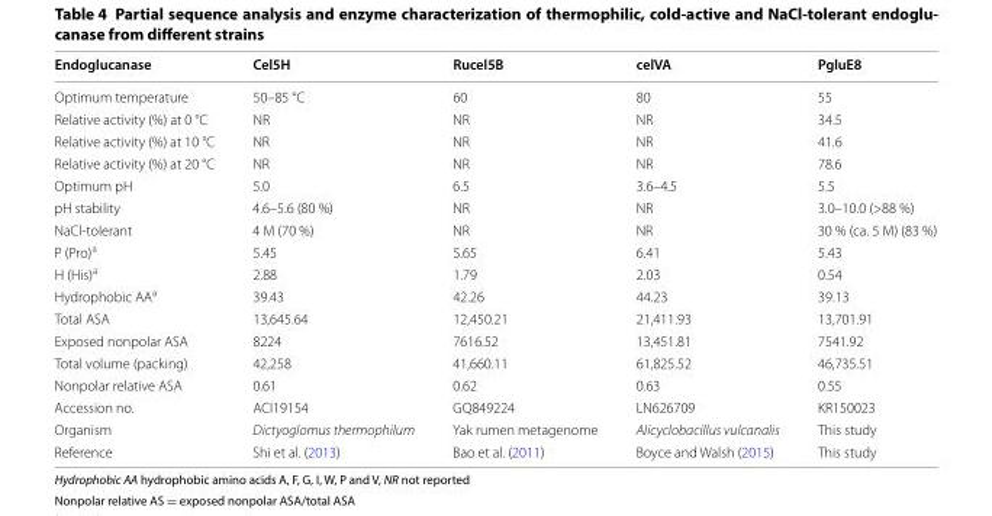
<table><thead><tr><td>Endoglucanase</td><td>Cel5H</td><td>Rucel5B</td><td>celVA</td><td>PgluE8</td></tr></thead><tbody><tr><td>Optimum temperature</td><td>50–85 °C</td><td>60</td><td>80</td><td>55</td></tr><tr><td>Relative activity (%) at 0 °C</td><td>NR</td><td>NR</td><td>NR</td><td>34.5</td></tr><tr><td>Relative activity (%) at 10 °C</td><td>NR</td><td>NR</td><td>NR</td><td>41.6</td></tr><tr><td>Relative activity (%) at 20 °C</td><td>NR</td><td>NR</td><td>NR</td><td>78.6</td></tr><tr><td>Optimum pH</td><td>5.0</td><td>6.5</td><td>3.6–4.5</td><td>5.5</td></tr><tr><td>pH stability</td><td>4.6–5.6 (80 %)</td><td>NR</td><td>NR</td><td>3.0–10.0 (&gt;88 %)</td></tr><tr><td>NaCl-tolerant</td><td>4 M (70 %)</td><td>NR</td><td>NR</td><td>30 % (ca. 5 M) (83 %)</td></tr><tr><td>P (Pro)<sup>a</sup></td><td>5.45</td><td>5.65</td><td>6.41</td><td>5.43</td></tr><tr><td>H (His)<sup>a</sup></td><td>2.88</td><td>1.79</td><td>2.03</td><td>0.54</td></tr><tr><td>Hydrophobic AA<sup>a</sup></td><td>39.43</td><td>42.26</td><td>44.23</td><td>39.13</td></tr><tr><td>Total ASA</td><td>13,645.64</td><td>12,450.21</td><td>21,411.93</td><td>13,701.91</td></tr><tr><td>Exposed nonpolar ASA</td><td>8224</td><td>7616.52</td><td>13,451.81</td><td>7541.92</td></tr><tr><td>Total volume (packing)</td><td>42,258</td><td>41,660.11</td><td>61,825.52</td><td>46,735.51</td></tr><tr><td>Nonpolar relative ASA</td><td>0.61</td><td>0.62</td><td>0.63</td><td>0.55</td></tr><tr><td>Accession no.</td><td>ACI19154</td><td>GQ849224</td><td>LN626709</td><td>KR150023</td></tr><tr><td>Organism</td><td>Dictyoglomus thermophilum</td><td>Yak rumen metagenome</td><td>Alicyclobacillus vulcanalis</td><td>This study</td></tr><tr><td>Reference</td><td>Shi et al. (2013)</td><td>Bao et al. (2011)</td><td>Boyce and Walsh (2015)</td><td>This study</td></tr></tbody></table>